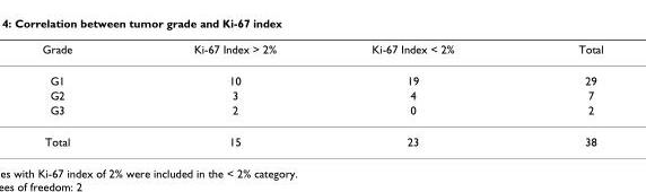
<table><thead><tr><td>Grade</td><td>Ki-67 Index &gt; 2%</td><td>Ki-67 Index &lt; 2%</td><td>Total</td></tr></thead><tbody><tr><td>G1</td><td>10</td><td>19</td><td>29</td></tr><tr><td>G2</td><td>3</td><td>4</td><td>7</td></tr><tr><td>G3</td><td>2</td><td>0</td><td>2</td></tr><tr><td>Total</td><td>15</td><td>23</td><td>38</td></tr></tbody></table>